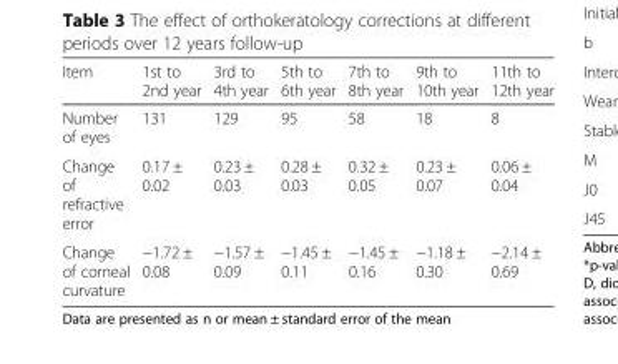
<table><thead><tr><td>Item</td><td>1st to 2nd year</td><td>3rd to 4th year</td><td>5th to 6th year</td><td>7th to 8th year</td><td>9th to 10th year</td><td>11th to 12th year</td></tr></thead><tbody><tr><td>Number of eyes</td><td>131</td><td>129</td><td>95</td><td>58</td><td>18</td><td>8</td></tr><tr><td>Change of refractive error</td><td>0.17 ± 0.02</td><td>0.23 ± 0.03</td><td>0.28 ± 0.03</td><td>0.32 ± 0.05</td><td>0.23 ± 0.07</td><td>0.06 ± 0.04</td></tr><tr><td>Change of corneal curvature</td><td>−1.72 ± 0.08</td><td>−1.57 ± 0.09</td><td>−1.45 ± 0.11</td><td>−1.45 ± 0.16</td><td>−1.18 ± 0.30</td><td>−2.14 ± 0.69</td></tr></tbody></table>